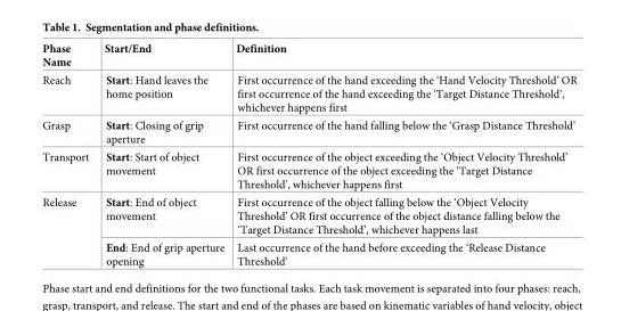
<table><thead><tr><td>Phase Name</td><td>Start/End</td><td>Definition</td></tr></thead><tbody><tr><td>Reach</td><td>Start: Hand leaves the home position</td><td>First occurrence of the hand exceeding the ‘Hand Velocity Threshold’ OR first occurrence of the hand exceeding the ‘Target Distance Threshold’, whichever happens first</td></tr><tr><td>Grasp</td><td>Start: Closing of grip aperture</td><td>First occurrence of the hand falling below the ‘Grasp Distance Threshold’</td></tr><tr><td>Transport</td><td>Start: Start of object movement</td><td>First occurrence of the object exceeding the ‘Object Velocity Threshold’ OR first occurrence of the object exceeding the ‘Target Distance Threshold’, whichever happens first</td></tr><tr><td rowspan="2">Release</td><td>Start: End of object movement</td><td>First occurrence of the object falling below the ‘Object Velocity Threshold’ OR first occurrence of the object distance falling below the ‘Target Distance Threshold’, whichever happens last</td></tr><tr><td>End: End of grip aperture opening</td><td>Last occurrence of the hand before exceeding the ‘Release Distance Threshold’</td></tr></tbody></table>